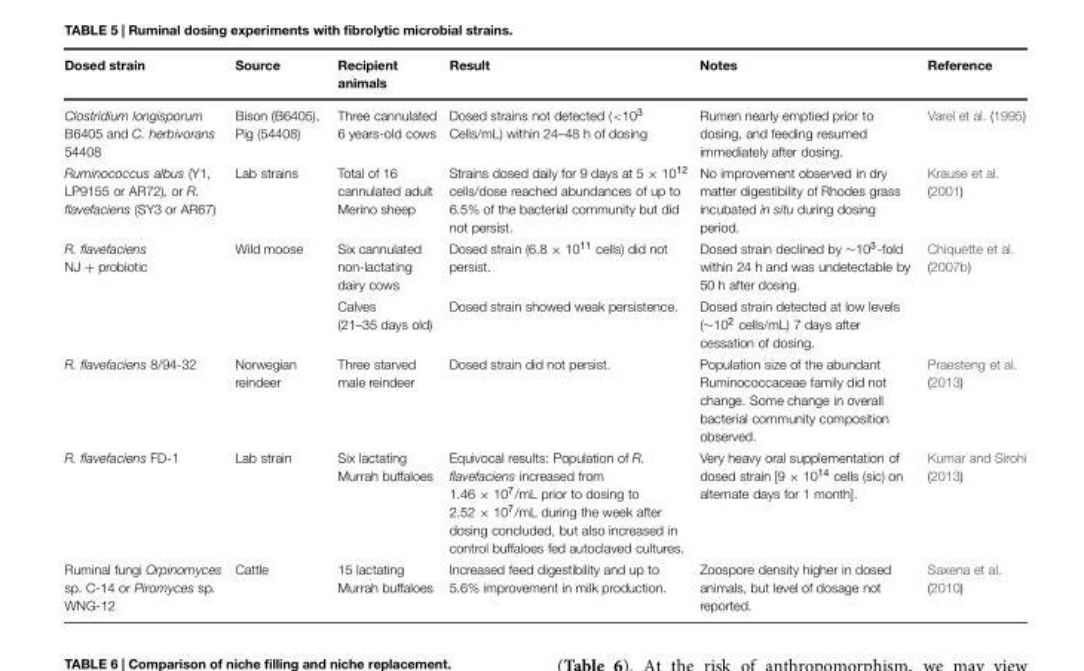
<table><thead><tr><td>Dosed strain</td><td>Source</td><td>Recipient animals</td><td>Result</td><td>Notes</td><td>Reference</td></tr></thead><tbody><tr><td>Clostridium longisporum B6405 and C. herbivorans 54408</td><td>Bison (B6405), Pig (54408)</td><td>Three cannulated 6 years-old cows</td><td>Dosed strains not detected (&lt;103 Cells/mL) within 24–48 h of dosing</td><td>Rumen nearly emptied prior to dosing, and feeding resumed immediately after dosing.</td><td>Varel et al. (1995)</td></tr><tr><td>Ruminococcus albus (Y1, LP9155 or AR72), or R. flavefaciens (SY3 or AR67)</td><td>Lab strains</td><td>Total of 16 cannulated adult Merino sheep</td><td>Strains dosed daily for 9 days at 5 × 10<sup>12</sup> cells/dose reached abundances of up to 6.5% of the bacterial community but did not persist.</td><td>No improvement observed in dry matter digestibility of Rhodes grass incubated in situ during dosing period.</td><td>Krause et al. (2001)</td></tr><tr><td rowspan="2">R. flavefaciens NJ + probiotic</td><td>Wild moose</td><td>Six cannulated non-lactating dairy cows</td><td>Dosed strain (6.8 × 10<sup>11</sup> cells) did not persist.</td><td>Dosed strain declined by ∼103-fold within 24 h and was undetectable by 50 h after dosing.</td><td>Chiquette et al. (2007b)</td></tr><tr><td></td><td>Calves (21–35 days old)</td><td>Dosed strain showed weak persistence.</td><td>Dosed strain detected at low levels (∼102 cells/mL) 7 days after cessation of dosing.</td><td></td></tr><tr><td>R. flavefaciens 8/94-32</td><td>Norwegian reindeer</td><td>Three starved male reindeer</td><td>Dosed strain did not persist.</td><td>Population size of the abundant Ruminococcaceae family did not change. Some change in overall bacterial community composition observed.</td><td>Praesteng et al. (2013)</td></tr><tr><td>R. flavefaciens FD-1</td><td>Lab strain</td><td>Six lactating Murrah buffaloes</td><td>Equivocal results: Population of R. flavefaciens increased from 1.46 × 10<sup>7</sup>/mL prior to dosing to 2.52 × 10<sup>7</sup>/mL during the week after dosing concluded, but also increased in control buffaloes fed autoclaved cultures.</td><td>Very heavy oral supplementation of dosed strain [9 × 10<sup>14</sup> cells (sic) on alternate days for 1 month].</td><td>Kumar and Sirohi (2013)</td></tr><tr><td>Ruminal fungi Orpinomyces sp. C-14 or Piromyces sp. WNG-12</td><td>Cattle</td><td>15 lactating Murrah buffaloes</td><td>Increased feed digestibility and up to 5.6% improvement in milk production.</td><td>Zoospore density higher in dosed animals, but level of dosage not reported.</td><td>Saxena et al. (2010)</td></tr></tbody></table>